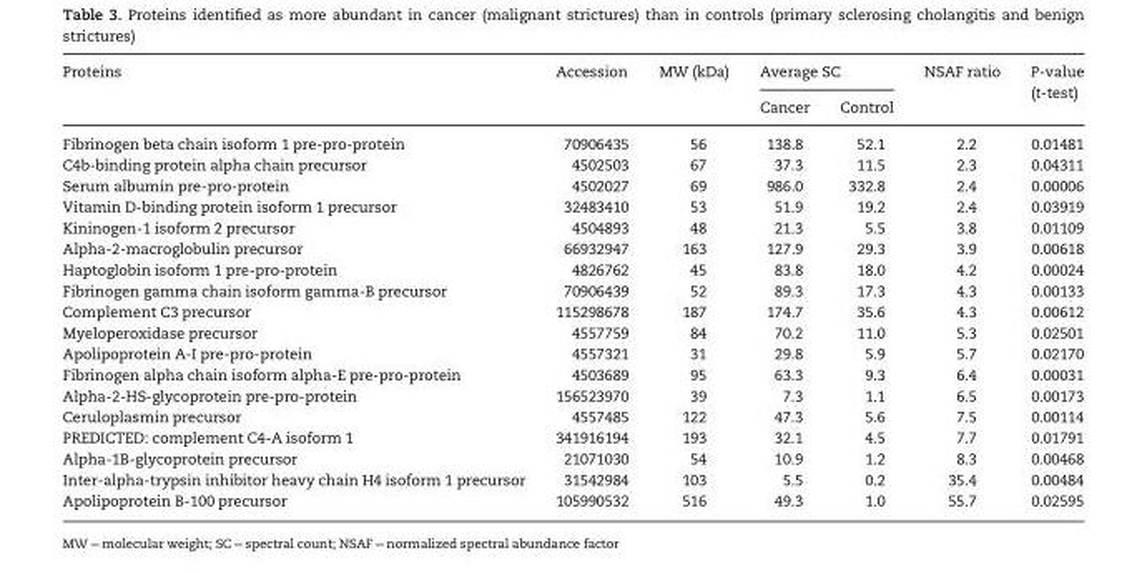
<table><thead><tr><td rowspan="2">Proteins</td><td rowspan="2">Accession</td><td rowspan="2">MW (kDa)</td><td colspan="2">Average SC</td><td rowspan="2">NSAF ratio</td><td rowspan="2">P-value (t-test)</td></tr><tr><td>Cancer</td><td>Control</td></tr></thead><tbody><tr><td>Fibrinogen beta chain isoform 1 pre-pro-protein</td><td>70906435</td><td>56</td><td>138.8</td><td>52.1</td><td>2.2</td><td>0.01481</td></tr><tr><td>C4b-binding protein alpha chain precursor</td><td>4502503</td><td>67</td><td>37.3</td><td>11.5</td><td>2.3</td><td>0.04311</td></tr><tr><td>Serum albumin pre-pro-protein</td><td>4502027</td><td>69</td><td>986.0</td><td>332.8</td><td>2.4</td><td>0.00006</td></tr><tr><td>Vitamin D-binding protein isoform 1 precursor</td><td>32483410</td><td>53</td><td>51.9</td><td>19.2</td><td>2.4</td><td>0.03919</td></tr><tr><td>Kininogen-1 isoform 2 precursor</td><td>4504893</td><td>48</td><td>21.3</td><td>5.5</td><td>3.8</td><td>0.01109</td></tr><tr><td>Alpha-2-macroglobulin precursor</td><td>66932947</td><td>163</td><td>127.9</td><td>29.3</td><td>3.9</td><td>0.00618</td></tr><tr><td>Haptoglobin isoform 1 pre-pro-protein</td><td>4826762</td><td>45</td><td>83.8</td><td>18.0</td><td>4.2</td><td>0.00024</td></tr><tr><td>Fibrinogen gamma chain isoform gamma-B precursor</td><td>70906439</td><td>52</td><td>89.3</td><td>17.3</td><td>4.3</td><td>0.00133</td></tr><tr><td>Complement C3 precursor</td><td>115298678</td><td>187</td><td>174.7</td><td>35.6</td><td>4.3</td><td>0.00612</td></tr><tr><td>Myeloperoxidase precursor</td><td>4557759</td><td>84</td><td>70.2</td><td>11.0</td><td>5.3</td><td>0.02501</td></tr><tr><td>Apolipoprotein A-I pre-pro-protein</td><td>4557321</td><td>31</td><td>29.8</td><td>5.9</td><td>5.7</td><td>0.02170</td></tr><tr><td>Fibrinogen alpha chain isoform alpha-E pre-pro-protein</td><td>4503689</td><td>95</td><td>63.3</td><td>9.3</td><td>6.4</td><td>0.00031</td></tr><tr><td>Alpha-2-HS-glycoprotein pre-pro-protein</td><td>156523970</td><td>39</td><td>7.3</td><td>1.1</td><td>6.5</td><td>0.00173</td></tr><tr><td>Ceruloplasmin precursor</td><td>4557485</td><td>122</td><td>47.3</td><td>5.6</td><td>7.5</td><td>0.00114</td></tr><tr><td>PREDICTED: complement C4-A isoform 1</td><td>341916194</td><td>193</td><td>32.1</td><td>4.5</td><td>7.7</td><td>0.01791</td></tr><tr><td>Alpha-1B-glycoprotein precursor</td><td>21071030</td><td>54</td><td>10.9</td><td>1.2</td><td>8.3</td><td>0.00468</td></tr><tr><td>Inter-alpha-trypsin inhibitor heavy chain H4 isoform 1 precursor</td><td>31542984</td><td>103</td><td>5.5</td><td>0.2</td><td>35.4</td><td>0.00484</td></tr><tr><td>Apolipoprotein B-100 precursor</td><td>105990532</td><td>516</td><td>49.3</td><td>1.0</td><td>55.7</td><td>0.02595</td></tr></tbody></table>